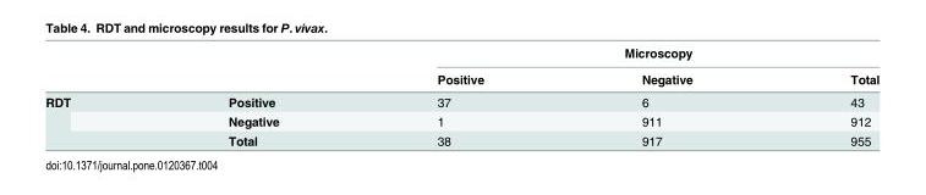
<table><thead><tr><td rowspan="2"></td><td rowspan="2"></td><td colspan="3">Microscopy</td></tr><tr><td>Positive</td><td>Negative</td><td>Total</td></tr></thead><tbody><tr><td rowspan="3">RDT</td><td>Positive</td><td>37</td><td>6</td><td>43</td></tr><tr><td>Negative</td><td>1</td><td>911</td><td>912</td></tr><tr><td>Total</td><td>38</td><td>917</td><td>955</td></tr></tbody></table>